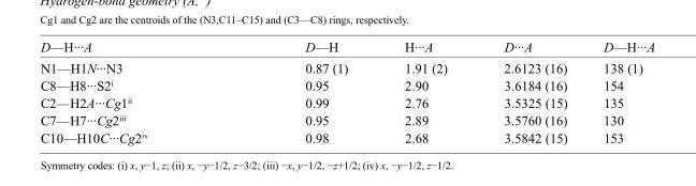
<table><tbody><tr><td>D—H···A</td><td>D—H</td><td>H···A</td><td>D···A</td><td>D—H···A</td></tr><tr><td>N1—H1N···N3</td><td>0.87 (1)</td><td>1.91 (2)</td><td>2.6123 (16)</td><td>138 (1)</td></tr><tr><td>C8—H8···S2<sup>i</sup></td><td>0.95</td><td>2.90</td><td>3.6184 (16)</td><td>154</td></tr><tr><td>C2—H2A···Cg1<sup>ii</sup></td><td>0.99</td><td>2.76</td><td>3.5325 (15)</td><td>135</td></tr><tr><td>C7—H7···Cg2<sup>iii</sup></td><td>0.95</td><td>2.89</td><td>3.5760 (16)</td><td>130</td></tr><tr><td>C10—H10C···Cg2<sup>iv</sup></td><td>0.98</td><td>2.68</td><td>3.5842 (15)</td><td>153</td></tr></tbody></table>